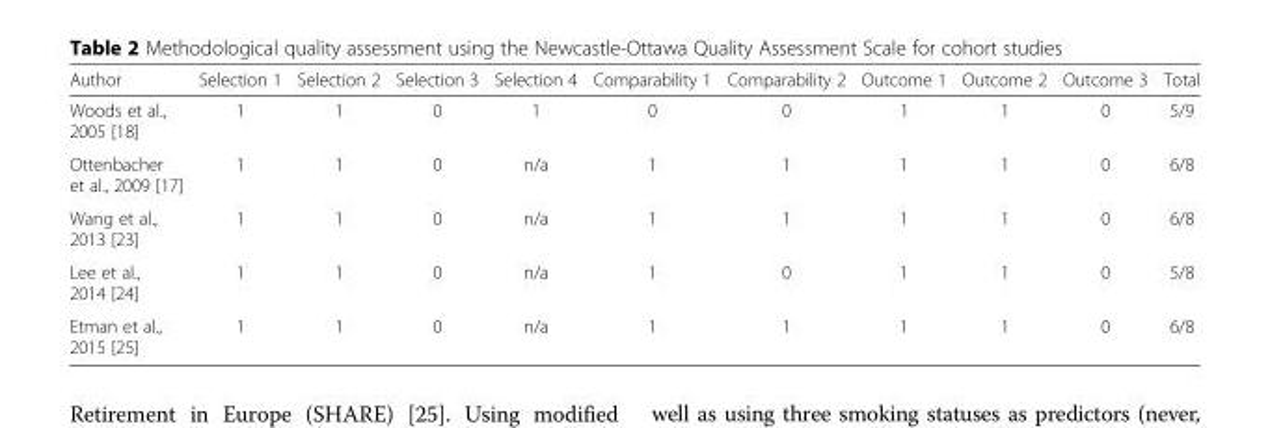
<table><thead><tr><td>Author</td><td>Selection 1</td><td>Selection 2</td><td>Selection 3</td><td>Selection 4</td><td>Comparability 1</td><td>Comparability 2</td><td>Outcome 1</td><td>Outcome 2</td><td>Outcome 3</td><td>Total</td></tr></thead><tbody><tr><td>Woods et al., 2005 [18]</td><td>1</td><td>1</td><td>0</td><td>1</td><td>0</td><td>0</td><td>1</td><td>1</td><td>0</td><td>5/9</td></tr><tr><td>Ottenbacher et al., 2009 [17]</td><td>1</td><td>1</td><td>0</td><td>n/a</td><td>1</td><td>1</td><td>1</td><td>1</td><td>0</td><td>6/8</td></tr><tr><td>Wang et al., 2013 [23]</td><td>1</td><td>1</td><td>0</td><td>n/a</td><td>1</td><td>1</td><td>1</td><td>1</td><td>0</td><td>6/8</td></tr><tr><td>Lee et al., 2014 [24]</td><td>1</td><td>1</td><td>0</td><td>n/a</td><td>1</td><td>0</td><td>1</td><td>1</td><td>0</td><td>5/8</td></tr><tr><td>Etman et al., 2015 [25]</td><td>1</td><td>1</td><td>0</td><td>n/a</td><td>1</td><td>1</td><td>1</td><td>1</td><td>0</td><td>6/8</td></tr></tbody></table>